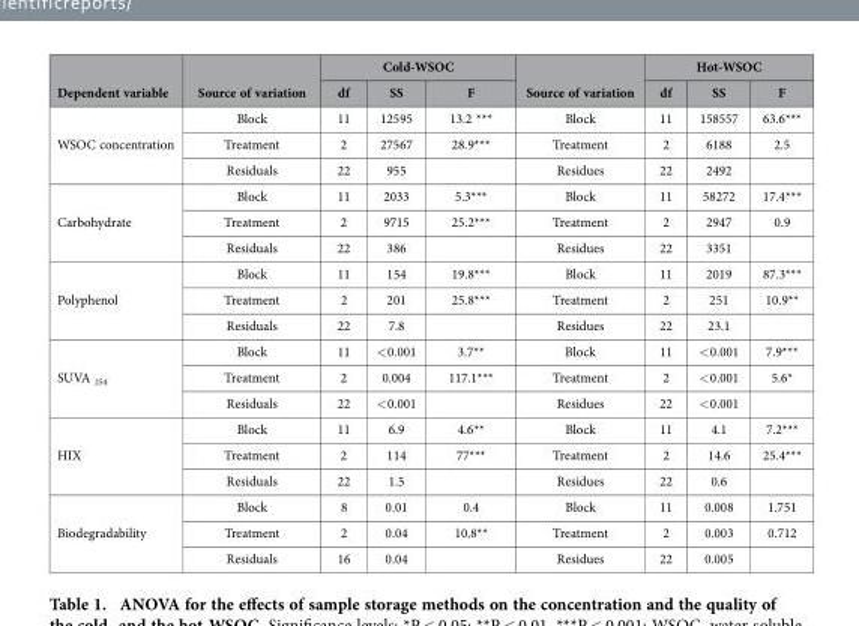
<table><thead><tr><td rowspan="2">Dependent variable</td><td rowspan="2">Source of variation</td><td colspan="3">Cold-WSOC</td><td rowspan="2">Source of variation</td><td colspan="3">Hot-WSOC</td></tr><tr><td>df</td><td>SS</td><td>F</td><td>df</td><td>SS</td><td>F</td></tr></thead><tbody><tr><td rowspan="3">WSOC concentration</td><td>Block</td><td>11</td><td>12595</td><td>13.2 ***</td><td>Block</td><td>11</td><td>158557</td><td>63.6***</td></tr><tr><td>Treatment</td><td>2</td><td>27567</td><td>28.9***</td><td>Treatment</td><td>2</td><td>6188</td><td>2.5</td></tr><tr><td>Residuals</td><td>22</td><td>955</td><td></td><td>Residues</td><td>22</td><td>2492</td><td></td></tr><tr><td rowspan="3">Carbohydrate</td><td>Block</td><td>11</td><td>2033</td><td>5.3***</td><td>Block</td><td>11</td><td>58272</td><td>17.4***</td></tr><tr><td>Treatment</td><td>2</td><td>9715</td><td>25.2***</td><td>Treatment</td><td>2</td><td>2947</td><td>0.9</td></tr><tr><td>Residuals</td><td>22</td><td>386</td><td></td><td>Residues</td><td>22</td><td>3351</td><td></td></tr><tr><td rowspan="3">Polyphenol</td><td>Block</td><td>11</td><td>154</td><td>19.8***</td><td>Block</td><td>11</td><td>2019</td><td>87.3***</td></tr><tr><td>Treatment</td><td>2</td><td>201</td><td>25.8***</td><td>Treatment</td><td>2</td><td>251</td><td>10.9**</td></tr><tr><td>Residuals</td><td>22</td><td>7.8</td><td></td><td>Residues</td><td>22</td><td>23.1</td><td></td></tr><tr><td rowspan="3">SUVA <sub>254</sub></td><td>Block</td><td>11</td><td>&lt; 0.001</td><td>3.7**</td><td>Block</td><td>11</td><td>&lt; 0.001</td><td>7.9***</td></tr><tr><td>Treatment</td><td>2</td><td>0.004</td><td>117.1***</td><td>Treatment</td><td>2</td><td>&lt; 0.001</td><td>5.6*</td></tr><tr><td>Residuals</td><td>22</td><td>&lt; 0.001</td><td></td><td>Residues</td><td>22</td><td>&lt; 0.001</td><td></td></tr><tr><td rowspan="3">HIX</td><td>Block</td><td>11</td><td>6.9</td><td>4.6**</td><td>Block</td><td>11</td><td>4.1</td><td>7.2***</td></tr><tr><td>Treatment</td><td>2</td><td>114</td><td>77***</td><td>Treatment</td><td>2</td><td>14.6</td><td>25.4***</td></tr><tr><td>Residuals</td><td>22</td><td>1.5</td><td></td><td>Residues</td><td>22</td><td>0.6</td><td></td></tr><tr><td rowspan="3">Biodegradability</td><td>Block</td><td>8</td><td>0.01</td><td>0.4</td><td>Block</td><td>11</td><td>0.008</td><td>1.751</td></tr><tr><td>Treatment</td><td>2</td><td>0.04</td><td>10.8**</td><td>Treatment</td><td>2</td><td>0.003</td><td>0.712</td></tr><tr><td>Residuals</td><td>16</td><td>0.04</td><td></td><td>Residues</td><td>22</td><td>0.005</td><td></td></tr></tbody></table>